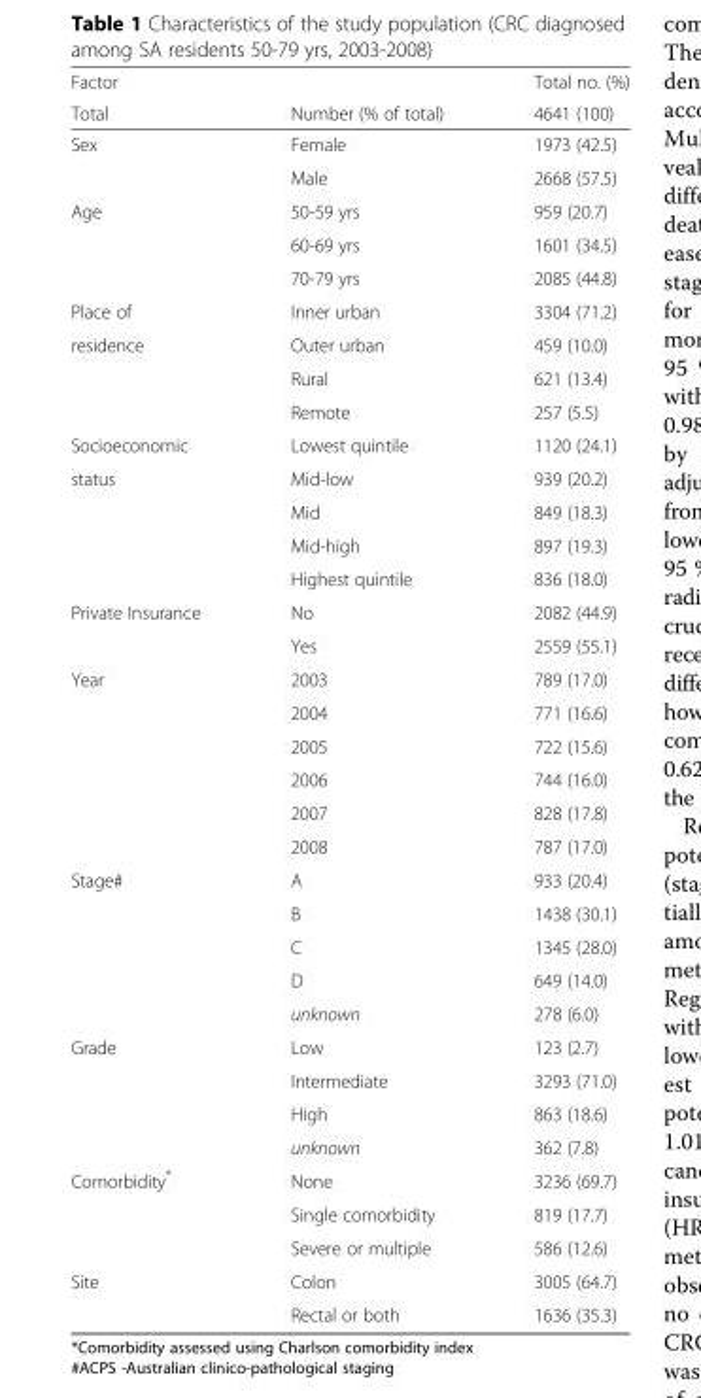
<table><thead><tr><td rowspan="2">Factor Total</td><td rowspan="2">Number (% of total)</td><td rowspan="2">Total no. (%) 4641 (100)</td></tr><tr></tr></thead><tbody><tr><td rowspan="2">Sex</td><td>Female</td><td>1973 (42.5)</td></tr><tr><td>Male</td><td>2668 (57.5)</td></tr><tr><td rowspan="3">Age</td><td>50-59 yrs</td><td>959 (20.7)</td></tr><tr><td>60-69 yrs</td><td>1601 (34.5)</td></tr><tr><td>70-79 yrs</td><td>2085 (44.8)</td></tr><tr><td>Place of</td><td>Inner urban</td><td>3304 (71.2)</td></tr><tr><td rowspan="3">residence</td><td>Outer urban</td><td>459 (10.0)</td></tr><tr><td>Rural</td><td>621 (13.4)</td></tr><tr><td>Remote</td><td>257 (5.5)</td></tr><tr><td>Socioeconomic</td><td>Lowest quintile</td><td>1120 (24.1)</td></tr><tr><td rowspan="4">status</td><td>Mid-low</td><td>939 (20.2)</td></tr><tr><td>Mid</td><td>849 (18.3)</td></tr><tr><td>Mid-high</td><td>897 (19.3)</td></tr><tr><td>Highest quintile</td><td>836 (18.0)</td></tr><tr><td rowspan="2">Private Insurance</td><td>No</td><td>2082 (44.9)</td></tr><tr><td>Yes</td><td>2559 (55.1)</td></tr><tr><td rowspan="6">Year</td><td>2003</td><td>789 (17.0)</td></tr><tr><td>2004</td><td>771 (16.6)</td></tr><tr><td>2005</td><td>722 (15.6)</td></tr><tr><td>2006</td><td>744 (16.0)</td></tr><tr><td>2007</td><td>828 (17.8)</td></tr><tr><td>2008</td><td>787 (17.0)</td></tr><tr><td rowspan="5">Stage#</td><td>A</td><td>933 (20.4)</td></tr><tr><td>B</td><td>1438 (30.1)</td></tr><tr><td>C</td><td>1345 (28.0)</td></tr><tr><td>D</td><td>649 (14.0)</td></tr><tr><td>unknown</td><td>278 (6.0)</td></tr><tr><td rowspan="4">Grade</td><td>Low</td><td>123 (2.7)</td></tr><tr><td>Intermediate</td><td>3293 (71.0)</td></tr><tr><td>High</td><td>863 (18.6)</td></tr><tr><td>unknown</td><td>362 (7.8)</td></tr><tr><td rowspan="3">Comorbidity*</td><td>None</td><td>3236 (69.7)</td></tr><tr><td>Single comorbidity</td><td>819 (17.7)</td></tr><tr><td>Severe or multiple</td><td>586 (12.6)</td></tr><tr><td rowspan="2">Site</td><td>Colon</td><td>3005 (64.7)</td></tr><tr><td>Rectal or both</td><td>1636 (35.3)</td></tr></tbody></table>